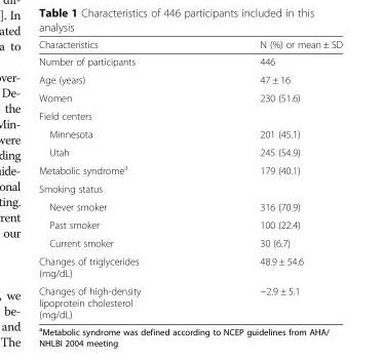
<table><thead><tr><td>Characteristics</td><td>N (%) or mean ± SD</td></tr></thead><tbody><tr><td>Number of participants</td><td>446</td></tr><tr><td>Age (years)</td><td>47 ± 16</td></tr><tr><td>Women</td><td>230 (51.6)</td></tr><tr><td colspan="2">Field centers</td></tr><tr><td>Minnesota</td><td>201 (45.1)</td></tr><tr><td>Utah</td><td>245 (54.9)</td></tr><tr><td>Metabolic syndrome<sup>a</sup></td><td>179 (40.1)</td></tr><tr><td colspan="2">Smoking status</td></tr><tr><td>Never smoker</td><td>316 (70.9)</td></tr><tr><td>Past smoker</td><td>100 (22.4)</td></tr><tr><td>Current smoker</td><td>30 (6.7)</td></tr><tr><td>Changes of triglycerides (mg/dL)</td><td>48.9 ± 54.6</td></tr><tr><td>Changes of high-density lipoprotein cholesterol (mg/dL)</td><td>−2.9 ± 5.1</td></tr></tbody></table>